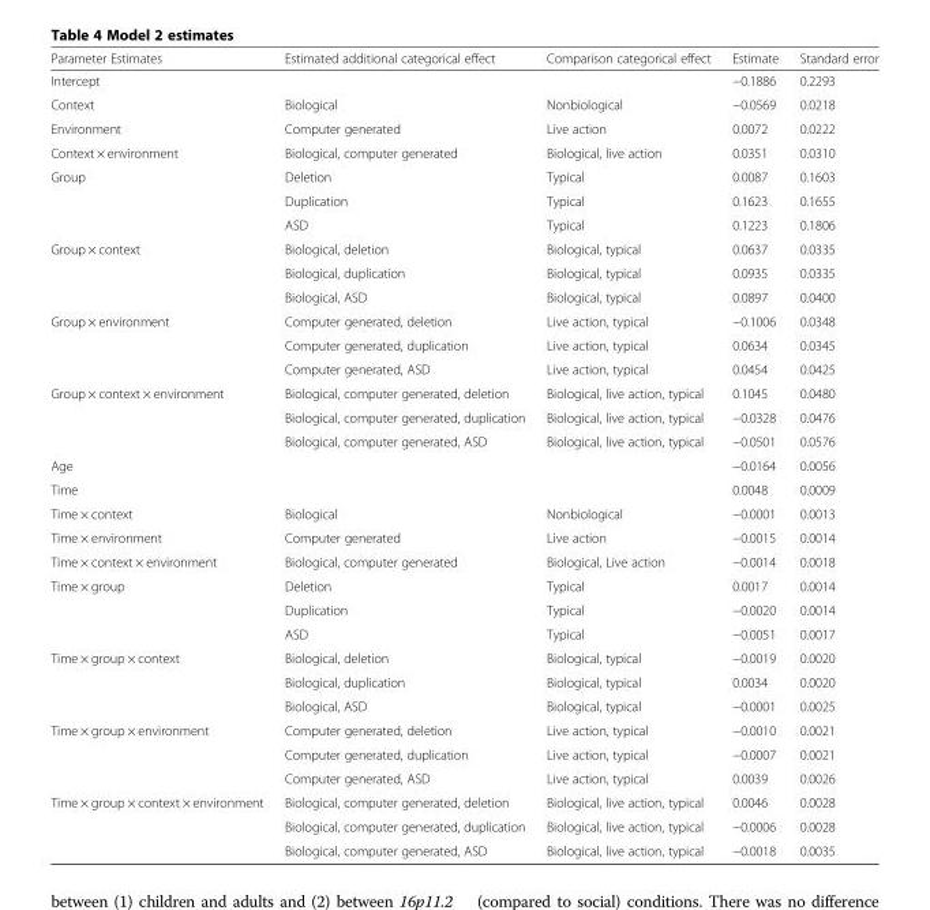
<table><thead><tr><td>Parameter Estimates</td><td>Estimated additional categorical effect</td><td>Comparison categorical effect</td><td>Estimate</td><td>Standard error</td></tr></thead><tbody><tr><td>Intercept</td><td></td><td></td><td>−0.1886</td><td>0.2293</td></tr><tr><td>Context</td><td>Biological</td><td>Nonbiological</td><td>−0.0569</td><td>0.0218</td></tr><tr><td>Environment</td><td>Computer generated</td><td>Live action</td><td>0.0072</td><td>0.0222</td></tr><tr><td>Context × environment</td><td>Biological, computer generated</td><td>Biological, live action</td><td>0.0351</td><td>0.0310</td></tr><tr><td rowspan="3">Group</td><td>Deletion</td><td>Typical</td><td>0.0087</td><td>0.1603</td></tr><tr><td>Duplication</td><td>Typical</td><td>0.1623</td><td>0.1655</td></tr><tr><td>ASD</td><td>Typical</td><td>0.1223</td><td>0.1806</td></tr><tr><td rowspan="3">Group × context</td><td>Biological, deletion</td><td>Biological, typical</td><td>0.0637</td><td>0.0335</td></tr><tr><td>Biological, duplication</td><td>Biological, typical</td><td>0.0935</td><td>0.0335</td></tr><tr><td>Biological, ASD</td><td>Biological, typical</td><td>0.0897</td><td>0.0400</td></tr><tr><td rowspan="3">Group × environment</td><td>Computer generated, deletion</td><td>Live action, typical</td><td>−0.1006</td><td>0.0348</td></tr><tr><td>Computer generated, duplication</td><td>Live action, typical</td><td>0.0634</td><td>0.0345</td></tr><tr><td>Computer generated, ASD</td><td>Live action, typical</td><td>0.0454</td><td>0.0425</td></tr><tr><td rowspan="3">Group × context × environment</td><td>Biological, computer generated, deletion</td><td>Biological, live action, typical</td><td>0.1045</td><td>0.0480</td></tr><tr><td>Biological, computer generated, duplication</td><td>Biological, live action, typical</td><td>−0.0328</td><td>0.0476</td></tr><tr><td>Biological, computer generated, ASD</td><td>Biological, live action, typical</td><td>−0.0501</td><td>0.0576</td></tr><tr><td>Age</td><td></td><td></td><td>−0.0164</td><td>0.0056</td></tr><tr><td>Time</td><td></td><td></td><td>0.0048</td><td>0.0009</td></tr><tr><td>Time × context</td><td>Biological</td><td>Nonbiological</td><td>−0.0001</td><td>0.0013</td></tr><tr><td>Time × environment</td><td>Computer generated</td><td>Live action</td><td>−0.0015</td><td>0.0014</td></tr><tr><td>Time × context × environment</td><td>Biological, computer generated</td><td>Biological, Live action</td><td>−0.0014</td><td>0.0018</td></tr><tr><td rowspan="3">Time × group</td><td>Deletion</td><td>Typical</td><td>0.0017</td><td>0.0014</td></tr><tr><td>Duplication</td><td>Typical</td><td>−0.0020</td><td>0.0014</td></tr><tr><td>ASD</td><td>Typical</td><td>−0.0051</td><td>0.0017</td></tr><tr><td rowspan="3">Time × group × context</td><td>Biological, deletion</td><td>Biological, typical</td><td>−0.0019</td><td>0.0020</td></tr><tr><td>Biological, duplication</td><td>Biological, typical</td><td>0.0034</td><td>0.0020</td></tr><tr><td>Biological, ASD</td><td>Biological, typical</td><td>−0.0001</td><td>0.0025</td></tr><tr><td rowspan="3">Time × group × environment</td><td>Computer generated, deletion</td><td>Live action, typical</td><td>−0.0010</td><td>0.0021</td></tr><tr><td>Computer generated, duplication</td><td>Live action, typical</td><td>−0.0007</td><td>0.0021</td></tr><tr><td>Computer generated, ASD</td><td>Live action, typical</td><td>0.0039</td><td>0.0026</td></tr><tr><td rowspan="3">Time × group × context × environment</td><td>Biological, computer generated, deletion</td><td>Biological, live action, typical</td><td>0.0046</td><td>0.0028</td></tr><tr><td>Biological, computer generated, duplication</td><td>Biological, live action, typical</td><td>−0.0006</td><td>0.0028</td></tr><tr><td>Biological, computer generated, ASD</td><td>Biological, live action, typical</td><td>−0.0018</td><td>0.0035</td></tr></tbody></table>